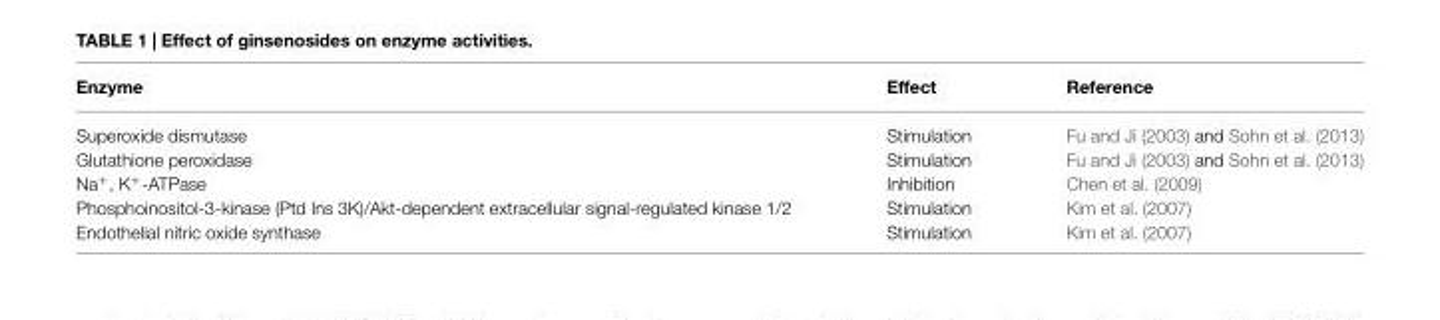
<table><thead><tr><td>Enzyme</td><td>Effect</td><td>Reference</td></tr></thead><tbody><tr><td>Superoxide dismutase</td><td>Stimulation</td><td>Fu and Ji (2003) and Sohn et al. (2013)</td></tr><tr><td>Glutathione peroxidase</td><td>Stimulation</td><td>Fu and Ji (2003) and Sohn et al. (2013)</td></tr><tr><td>Na<sup>+</sup>, K<sup>+</sup>-ATPase</td><td>Inhibition</td><td>Chen et al. (2009)</td></tr><tr><td>Phosphoinositol-3-kinase (Ptd Ins 3K)/Akt-dependent extracellular signal-regulated kinase 1/2</td><td>Stimulation</td><td>Kim et al. (2007)</td></tr><tr><td>Endothelial nitric oxide synthase</td><td>Stimulation</td><td>Kim et al. (2007)</td></tr></tbody></table>